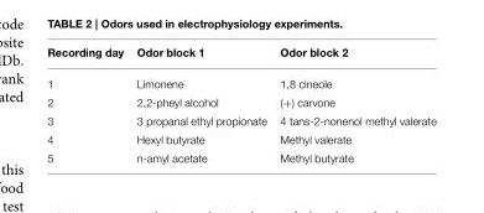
<table><thead><tr><td>Recording day</td><td>Odor block 1</td><td>Odor block 2</td></tr></thead><tbody><tr><td>1</td><td>Limonene</td><td>1,8 cineole</td></tr><tr><td>2</td><td>2,2-pheyl alcohol</td><td>(+) carvone</td></tr><tr><td>3</td><td>3 propanal ethyl propionate</td><td>4 tans-2-nonenol methyl valerate</td></tr><tr><td>4</td><td>Hexyl butyrate</td><td>Methyl valerate</td></tr><tr><td>5</td><td>n-amyl acetate</td><td>Methyl butyrate</td></tr></tbody></table>